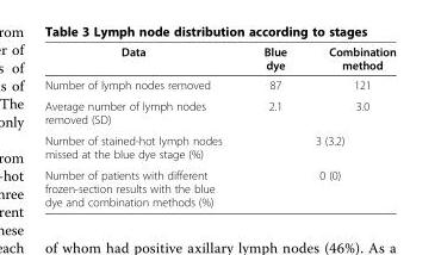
<table><thead><tr><td>Data</td><td>Blue dye</td><td>Combination method</td></tr></thead><tbody><tr><td>Number of lymph nodes removed</td><td>87</td><td>121</td></tr><tr><td>Average number of lymph nodes removed (SD)</td><td>2.1</td><td>3.0</td></tr><tr><td>Number of stained-hot lymph nodes missed at the blue dye stage (%)</td><td colspan="2">3 (3.2)</td></tr><tr><td>Number of patients with different frozen-section results with the blue dye and combination methods (%)</td><td colspan="2">0 (0)</td></tr></tbody></table>